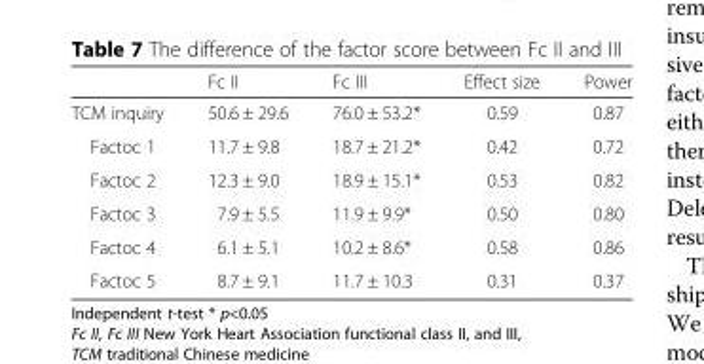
<table><thead><tr><td></td><td>Fc II</td><td>Fc III</td><td>Effect size</td><td>Power</td></tr></thead><tbody><tr><td>TCM inquiry</td><td>50.6 ± 29.6</td><td>76.0 ± 53.2*</td><td>0.59</td><td>0.87</td></tr><tr><td>Factoc 1</td><td>11.7 ± 9.8</td><td>18.7 ± 21.2*</td><td>0.42</td><td>0.72</td></tr><tr><td>Factoc 2</td><td>12.3 ± 9.0</td><td>18.9 ± 15.1*</td><td>0.53</td><td>0.82</td></tr><tr><td>Factoc 3</td><td>7.9 ± 5.5</td><td>11.9 ± 9.9*</td><td>0.50</td><td>0.80</td></tr><tr><td>Factoc 4</td><td>6.1 ± 5.1</td><td>10.2 ± 8.6*</td><td>0.58</td><td>0.86</td></tr><tr><td>Factoc 5</td><td>8.7 ± 9.1</td><td>11.7 ± 10.3</td><td>0.31</td><td>0.37</td></tr></tbody></table>